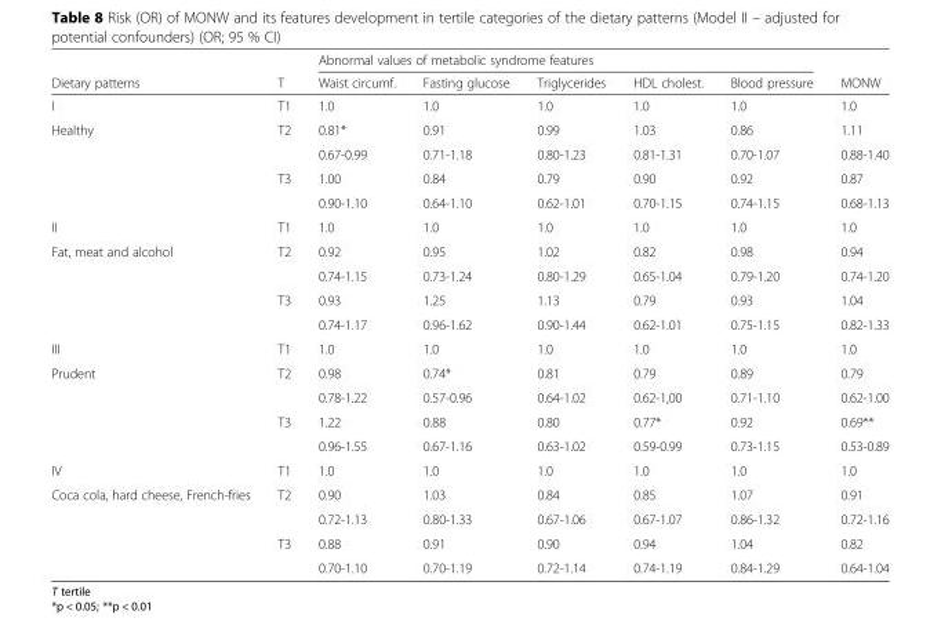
<table><thead><tr><td rowspan="2">Dietary patterns</td><td rowspan="2">T</td><td colspan="5">Abnormal values of metabolic syndrome features</td><td rowspan="2">MONW</td></tr><tr><td>Waist circumf.</td><td>Fasting glucose</td><td>Triglycerides</td><td>HDL cholest.</td><td>Blood pressure</td></tr></thead><tbody><tr><td>I</td><td>T1</td><td>1.0</td><td>1.0</td><td>1.0</td><td>1.0</td><td>1.0</td><td>1.0</td></tr><tr><td rowspan="4">Healthy</td><td rowspan="2">T2</td><td>0.81*</td><td>0.91</td><td>0.99</td><td>1.03</td><td>0.86</td><td>1.11</td></tr><tr><td>0.67-0.99</td><td>0.71-1.18</td><td>0.80-1.23</td><td>0.81-1.31</td><td>0.70-1.07</td><td>0.88-1.40</td></tr><tr><td rowspan="2">T3</td><td>1.00</td><td>0.84</td><td>0.79</td><td>0.90</td><td>0.92</td><td>0.87</td></tr><tr><td>0.90-1.10</td><td>0.64-1.10</td><td>0.62-1.01</td><td>0.70-1.15</td><td>0.74-1.15</td><td>0.68-1.13</td></tr><tr><td>II</td><td>T1</td><td>1.0</td><td>1.0</td><td>1.0</td><td>1.0</td><td>1.0</td><td>1.0</td></tr><tr><td rowspan="4">Fat, meat and alcohol</td><td rowspan="2">T2</td><td>0.92</td><td>0.95</td><td>1.02</td><td>0.82</td><td>0.98</td><td>0.94</td></tr><tr><td>0.74-1.15</td><td>0.73-1.24</td><td>0.80-1.29</td><td>0.65-1.04</td><td>0.79-1.20</td><td>0.74-1.20</td></tr><tr><td rowspan="2">T3</td><td>0.93</td><td>1.25</td><td>1.13</td><td>0.79</td><td>0.93</td><td>1.04</td></tr><tr><td>0.74-1.17</td><td>0.96-1.62</td><td>0.90-1.44</td><td>0.62-1.01</td><td>0.75-1.15</td><td>0.82-1.33</td></tr><tr><td>III</td><td>T1</td><td>1.0</td><td>1.0</td><td>1.0</td><td>1.0</td><td>1.0</td><td>1.0</td></tr><tr><td rowspan="4">Prudent</td><td rowspan="2">T2</td><td>0.98</td><td>0.74*</td><td>0.81</td><td>0.79</td><td>0.89</td><td>0.79</td></tr><tr><td>0.78-1.22</td><td>0.57-0.96</td><td>0.64-1.02</td><td>0.62-1,00</td><td>0.71-1.10</td><td>0.62-1.00</td></tr><tr><td rowspan="2">T3</td><td>1.22</td><td>0.88</td><td>0.80</td><td>0.77*</td><td>0.92</td><td>0.69**</td></tr><tr><td>0.96-1.55</td><td>0.67-1.16</td><td>0.63-1.02</td><td>0.59-0.99</td><td>0.73-1.15</td><td>0.53-0.89</td></tr><tr><td>IV</td><td>T1</td><td>1.0</td><td>1.0</td><td>1.0</td><td>1.0</td><td>1.0</td><td>1.0</td></tr><tr><td rowspan="4">Coca cola, hard cheese, French-fries</td><td rowspan="2">T2</td><td>0.90</td><td>1.03</td><td>0.84</td><td>0.85</td><td>1.07</td><td>0.91</td></tr><tr><td>0.72-1.13</td><td>0.80-1.33</td><td>0.67-1.06</td><td>0.67-1.07</td><td>0.86-1.32</td><td>0.72-1.16</td></tr><tr><td rowspan="2">T3</td><td>0.88</td><td>0.91</td><td>0.90</td><td>0.94</td><td>1.04</td><td>0.82</td></tr><tr><td>0.70-1.10</td><td>0.70-1.19</td><td>0.72-1.14</td><td>0.74-1.19</td><td>0.84-1.29</td><td>0.64-1.04</td></tr></tbody></table>